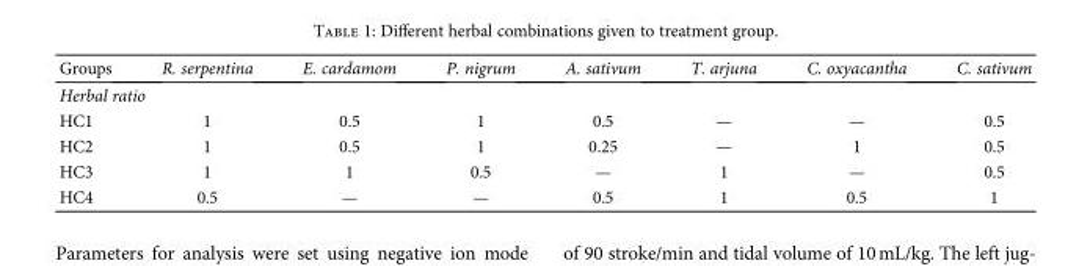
<table><thead><tr><td>Groups</td><td>R. serpentina</td><td>E. cardamom</td><td>P. nigrum</td><td>A. sativum</td><td>T. arjuna</td><td>C. oxyacantha</td><td>C. sativum</td></tr></thead><tbody><tr><td colspan="8">Herbal ratio</td></tr><tr><td>HC1</td><td>1</td><td>0.5</td><td>1</td><td>0.5</td><td>—</td><td>—</td><td>0.5</td></tr><tr><td>HC2</td><td>1</td><td>0.5</td><td>1</td><td>0.25</td><td>—</td><td>1</td><td>0.5</td></tr><tr><td>HC3</td><td>1</td><td>1</td><td>0.5</td><td>—</td><td>1</td><td>—</td><td>0.5</td></tr><tr><td>HC4</td><td>0.5</td><td>—</td><td>—</td><td>0.5</td><td>1</td><td>0.5</td><td>1</td></tr></tbody></table>